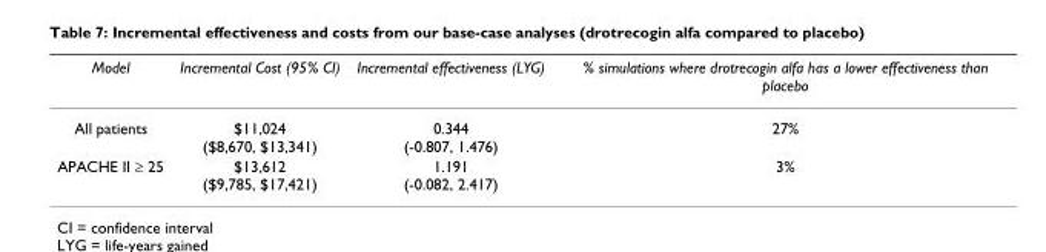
<table><thead><tr><td>Model</td><td>Incremental Cost (95% CI)</td><td>Incremental effectiveness (LYG)</td><td>% simulations where drotrecogin alfa has a lower effectiveness than placebo</td></tr></thead><tbody><tr><td>All patients</td><td>$11,024 ($8,670, $13,341)</td><td>0.344 (-0.807, 1.476)</td><td>27%</td></tr><tr><td>APACHE II ≥ 25</td><td>$13,612 ($9,785, $17,421)</td><td>1.191 (-0.082, 2.417)</td><td>3%</td></tr></tbody></table>